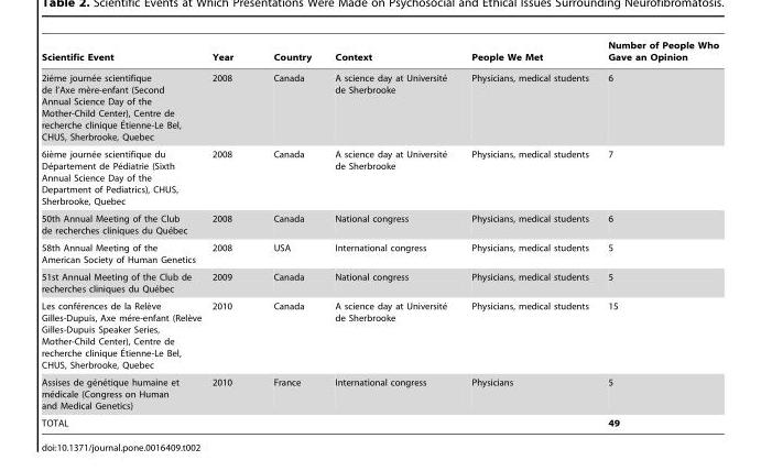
<table><thead><tr><td>Scientific Event</td><td>Year</td><td>Country</td><td>Context</td><td>People We Met</td><td>Number of People Who Gave an Opinion</td></tr></thead><tbody><tr><td>2ie´me journe´e scientifique de l’Axe me`re-enfant (Second Annual Science Day of the Mother-Child Center), Centre de recherche clinique E´tienne-Le Bel, CHUS, Sherbrooke, Quebec</td><td>2008</td><td>Canada</td><td>A science day at Universite´ de Sherbrooke</td><td>Physicians, medical students</td><td>6</td></tr><tr><td>6ie`me journe´e scientifique du De´partement de Pe´diatrie (Sixth Annual Science Day of the Department of Pediatrics), CHUS, Sherbrooke, Quebec</td><td>2008</td><td>Canada</td><td>A science day at Universite´ de Sherbrooke</td><td>Physicians, medical students</td><td>7</td></tr><tr><td>50th Annual Meeting of the Club de recherches cliniques du Que´bec</td><td>2008</td><td>Canada</td><td>National congress</td><td>Physicians, medical students</td><td>6</td></tr><tr><td>58th Annual Meeting of the American Society of Human Genetics</td><td>2008</td><td>USA</td><td>International congress</td><td>Physicians, medical students</td><td>5</td></tr><tr><td>51st Annual Meeting of the Club de recherches cliniques du Que´bec</td><td>2009</td><td>Canada</td><td>National congress</td><td>Physicians, medical students</td><td>5</td></tr><tr><td>Les confe´rences de la Rele`ve Gilles-Dupuis, Axe me´re-enfant (Rele`ve Gilles-Dupuis Speaker Series, Mother-Child Center), Centre de recherche clinique E´tienne-Le Bel, CHUS, Sherbrooke, Quebec</td><td>2010</td><td>Canada</td><td>A science day at Universite´ de Sherbrooke</td><td>Physicians, medical students</td><td>15</td></tr><tr><td>Assises de ge´ne´tique humaine et me´dicale (Congress on Human and Medical Genetics)</td><td>2010</td><td>France</td><td>International congress</td><td>Physicians</td><td>5</td></tr><tr><td colspan="2">TOTAL</td><td colspan="3"></td><td>49</td></tr></tbody></table>